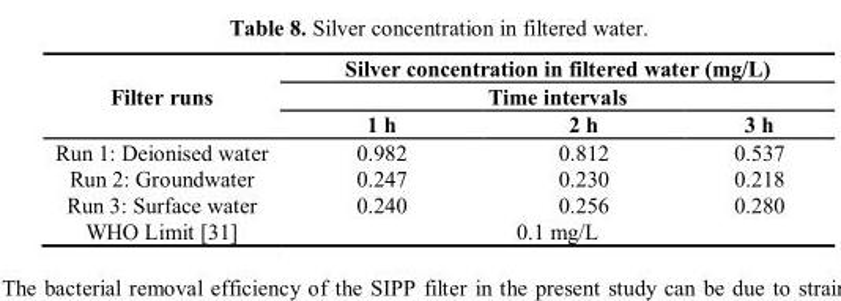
<table><thead><tr><td rowspan="3">Filter runs</td><td rowspan="2" colspan="3">Silver concentration in filtered water (mg/L) Time intervals</td></tr><tr></tr><tr><td>1 h</td><td>2 h</td><td>3 h</td></tr></thead><tbody><tr><td>Run 1: Deionised water</td><td>0.982</td><td>0.812</td><td>0.537</td></tr><tr><td>Run 2: Groundwater</td><td>0.247</td><td>0.230</td><td>0.218</td></tr><tr><td>Run 3: Surface water</td><td>0.240</td><td>0.256</td><td>0.280</td></tr><tr><td>WHO Limit [31]</td><td colspan="3">0.1 mg/L</td></tr></tbody></table>